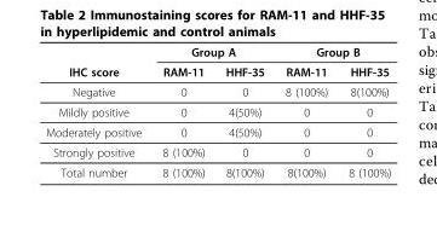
<table><thead><tr><td rowspan="2">IHC score</td><td colspan="2">Group A</td><td colspan="2">Group B</td></tr><tr><td>RAM-11</td><td>HHF-35</td><td>RAM-11</td><td>HHF-35</td></tr></thead><tbody><tr><td>Negative</td><td>0</td><td>0</td><td>8 (100%)</td><td>8(100%)</td></tr><tr><td>Mildly positive</td><td>0</td><td>4(50%)</td><td>0</td><td>0</td></tr><tr><td>Moderately positive</td><td>0</td><td>4(50%)</td><td>0</td><td>0</td></tr><tr><td>Strongly positive</td><td>8 (100%)</td><td>0</td><td>0</td><td>0</td></tr><tr><td>Total number</td><td>8 (100%)</td><td>8(100%)</td><td>8(100%)</td><td>8 (100%)</td></tr></tbody></table>